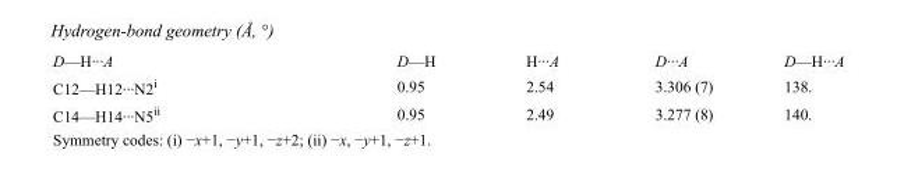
<table><tbody><tr><td>D—H···A</td><td>D—H</td><td>H···A</td><td>D···A</td><td>D—H···A</td></tr><tr><td>C12—H12···N2<sup>i</sup></td><td>0.95</td><td>2.54</td><td>3.306 (7)</td><td>138.</td></tr><tr><td>C14—H14···N5<sup>ii</sup></td><td>0.95</td><td>2.49</td><td>3.277 (8)</td><td>140.</td></tr></tbody></table>